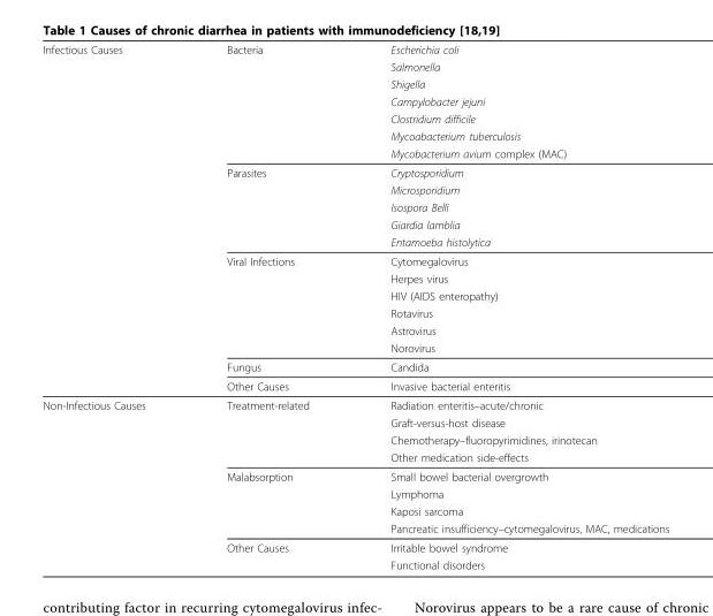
<table><thead><tr><td rowspan="20">Infectious Causes</td><td rowspan="20">Bacteria Parasites Viral Infections Fungus Other Causes</td><td rowspan="20">Escherichia coli Salmonella Shigella Campylobacter jejuni Clostridium difficile Mycoabacterium tuberculosis Mycobacterium avium complex (MAC) Cryptosporidium Microsporidium Isospora Belli Giardia lamblia Entamoeba histolytica Cytomegalovirus Herpes virus HIV (AIDS enteropathy) Rotavirus Astrovirus Norovirus Candida Invasive bacterial enteritis</td></tr><tr></tr><tr></tr><tr></tr><tr></tr><tr></tr><tr></tr><tr></tr><tr></tr><tr></tr><tr></tr><tr></tr><tr></tr><tr></tr><tr></tr><tr></tr><tr></tr><tr></tr><tr></tr><tr></tr></thead><tbody><tr><td rowspan="10">Non-Infectious Causes</td><td>Treatment-related</td><td>Radiation enteritis–acute/chronic</td></tr><tr><td></td><td>Graft-versus-host disease</td></tr><tr><td></td><td>Chemotherapy–fluoropyrimidines, irinotecan</td></tr><tr><td></td><td>Other medication side-effects</td></tr><tr><td>Malabsorption</td><td>Small bowel bacterial overgrowth</td></tr><tr><td></td><td>Lymphoma</td></tr><tr><td></td><td>Kaposi sarcoma</td></tr><tr><td></td><td>Pancreatic insufficiency–cytomegalovirus, MAC, medications</td></tr><tr><td>Other Causes</td><td>Irritable bowel syndrome</td></tr><tr><td></td><td>Functional disorders</td></tr></tbody></table>